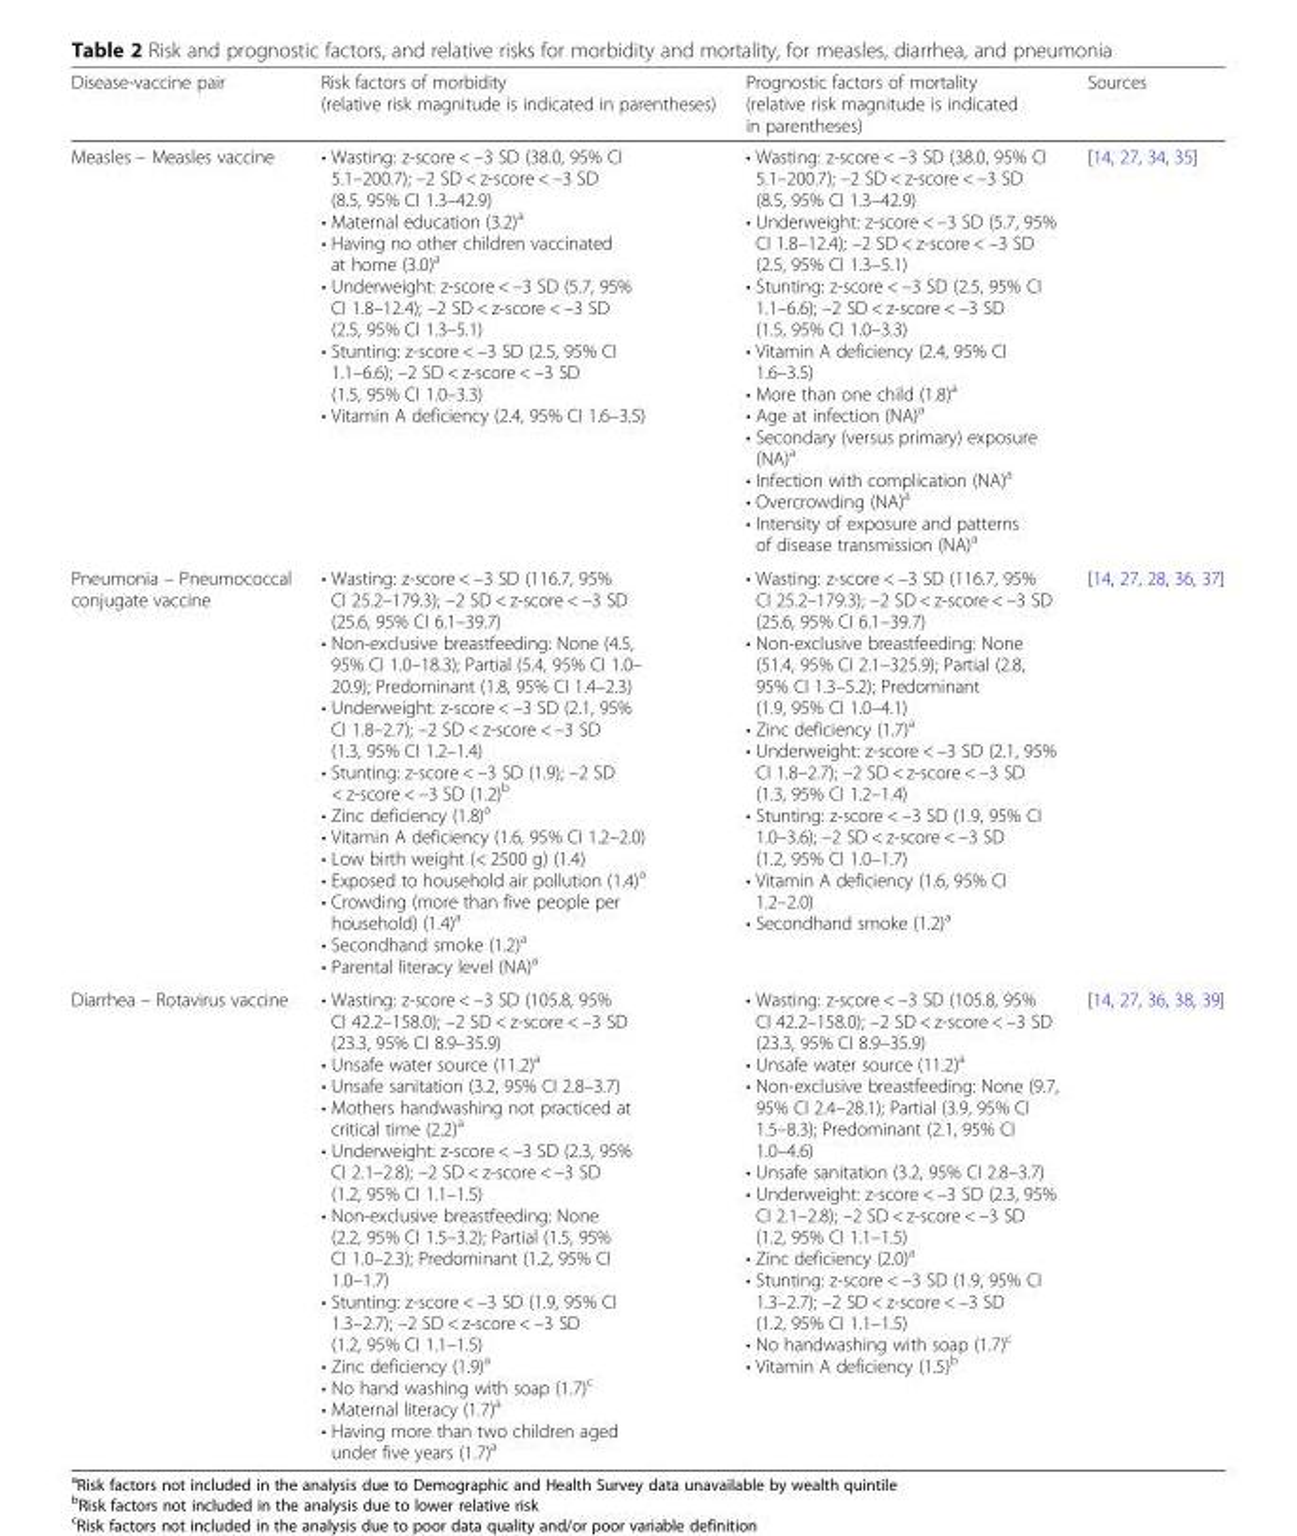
<table><thead><tr><td>Disease-vaccine pair</td><td>Risk factors of morbidity (relative risk magnitude is indicated in parentheses)</td><td>Prognostic factors of mortality (relative risk magnitude is indicated in parentheses)</td><td>Sources</td></tr></thead><tbody><tr><td>Measles – Measles vaccine</td><td>• Wasting: z-score &lt; –3 SD (38.0, 95% CI 5.1–200.7); –2 SD &lt; z-score &lt; –3 SD (8.5, 95% CI 1.3–42.9) • Maternal education (3.2)<sup>a</sup> • Having no other children vaccinated at home (3.0)<sup>a</sup> • Underweight: z-score &lt; –3 SD (5.7, 95% CI 1.8–12.4); –2 SD &lt; z-score &lt; –3 SD (2.5, 95% CI 1.3–5.1) • Stunting: z-score &lt; –3 SD (2.5, 95% CI 1.1–6.6); –2 SD &lt; z-score &lt; –3 SD (1.5, 95% CI 1.0–3.3) • Vitamin A deficiency (2.4, 95% CI 1.6–3.5)</td><td>• Wasting: z-score &lt; –3 SD (38.0, 95% CI 5.1–200.7); –2 SD &lt; z-score &lt; –3 SD (8.5, 95% CI 1.3–42.9) • Underweight: z-score &lt; –3 SD (5.7, 95% CI 1.8–12.4); –2 SD &lt; z-score &lt; –3 SD (2.5, 95% CI 1.3–5.1) • Stunting: z-score &lt; –3 SD (2.5, 95% CI 1.1–6.6); –2 SD &lt; z-score &lt; –3 SD (1.5, 95% CI 1.0–3.3) • Vitamin A deficiency (2.4, 95% CI 1.6–3.5) • More than one child (1.8)<sup>a</sup> • Age at infection (NA)<sup>a</sup> • Secondary (versus primary) exposure (NA)<sup>a</sup> • Infection with complication (NA)<sup>a</sup> • Overcrowding (NA)<sup>a</sup> • Intensity of exposure and patterns of disease transmission (NA)<sup>a</sup></td><td>[14, 27, 34, 35]</td></tr><tr><td>Pneumonia – Pneumococcal conjugate vaccine</td><td>• Wasting: z-score &lt; –3 SD (116.7, 95% CI 25.2–179.3); –2 SD &lt; z-score &lt; –3 SD (25.6, 95% CI 6.1–39.7) • Non-exclusive breastfeeding: None (4.5, 95% CI 1.0–18.3); Partial (5.4, 95% CI 1.0– 20.9); Predominant (1.8, 95% CI 1.4–2.3) • Underweight: z-score &lt; –3 SD (2.1, 95% CI 1.8–2.7); –2 SD &lt; z-score &lt; –3 SD (1.3, 95% CI 1.2–1.4) • Stunting: z-score &lt; –3 SD (1.9); –2 SD &lt; z-score &lt; –3 SD (1.2)<sup>b</sup> • Zinc deficiency (1.8)<sup>a</sup> • Vitamin A deficiency (1.6, 95% CI 1.2–2.0) • Low birth weight (&lt; 2500 g) (1.4) • Exposed to household air pollution (1.4)<sup>a</sup> • Crowding (more than five people per household) (1.4)<sup>a</sup> • Secondhand smoke (1.2)<sup>a</sup> • Parental literacy level (NA)<sup>a</sup></td><td>• Wasting: z-score &lt; –3 SD (116.7, 95% CI 25.2–179.3); –2 SD &lt; z-score &lt; –3 SD (25.6, 95% CI 6.1–39.7) • Non-exclusive breastfeeding: None (51.4, 95% CI 2.1–325.9); Partial (2.8, 95% CI 1.3–5.2); Predominant (1.9, 95% CI 1.0–4.1) • Zinc deficiency (1.7)<sup>a</sup> • Underweight: z-score &lt; –3 SD (2.1, 95% CI 1.8–2.7); –2 SD &lt; z-score &lt; –3 SD (1.3, 95% CI 1.2–1.4) • Stunting: z-score &lt; –3 SD (1.9, 95% CI 1.0–3.6); –2 SD &lt; z-score &lt; –3 SD (1.2, 95% CI 1.0–1.7) • Vitamin A deficiency (1.6, 95% CI 1.2–2.0) • Secondhand smoke (1.2)<sup>a</sup></td><td>[14, 27, 28, 36, 37]</td></tr><tr><td>Diarrhea – Rotavirus vaccine</td><td>• Wasting: z-score &lt; –3 SD (105.8, 95% CI 42.2–158.0); –2 SD &lt; z-score &lt; –3 SD (23.3, 95% CI 8.9–35.9) • Unsafe water source (11.2)<sup>a</sup> • Unsafe sanitation (3.2, 95% CI 2.8–3.7) • Mothers handwashing not practiced at critical time (2.2)<sup>a</sup> • Underweight: z-score &lt; –3 SD (2.3, 95% CI 2.1–2.8); –2 SD &lt; z-score &lt; –3 SD (1.2, 95% CI 1.1–1.5) • Non-exclusive breastfeeding: None (2.2, 95% CI 1.5–3.2); Partial (1.5, 95% CI 1.0–2.3); Predominant (1.2, 95% CI 1.0–1.7) • Stunting: z-score &lt; –3 SD (1.9, 95% CI 1.3–2.7); –2 SD &lt; z-score &lt; –3 SD (1.2, 95% CI 1.1–1.5) • Zinc deficiency (1.9)<sup>a</sup> • No hand washing with soap (1.7)<sup>c</sup> • Maternal literacy (1.7)<sup>a</sup> • Having more than two children aged under five years (1.7)<sup>a</sup></td><td>• Wasting: z-score &lt; –3 SD (105.8, 95% CI 42.2–158.0); –2 SD &lt; z-score &lt; –3 SD (23.3, 95% CI 8.9–35.9) • Unsafe water source (11.2)<sup>a</sup> • Non-exclusive breastfeeding: None (9.7, 95% CI 2.4–28.1); Partial (3.9, 95% CI 1.5–8.3); Predominant (2.1, 95% CI 1.0–4.6) • Unsafe sanitation (3.2, 95% CI 2.8–3.7) • Underweight: z-score &lt; –3 SD (2.3, 95% CI 2.1–2.8); –2 SD &lt; z-score &lt; –3 SD (1.2, 95% CI 1.1–1.5) • Zinc deficiency (2.0)<sup>a</sup> • Stunting: z-score &lt; –3 SD (1.9, 95% CI 1.3–2.7); –2 SD &lt; z-score &lt; –3 SD (1.2, 95% CI 1.1–1.5) • No handwashing with soap (1.7)<sup>c</sup> • Vitamin A deficiency (1.5)<sup>b</sup></td><td>[14, 27, 36, 38, 39]</td></tr></tbody></table>